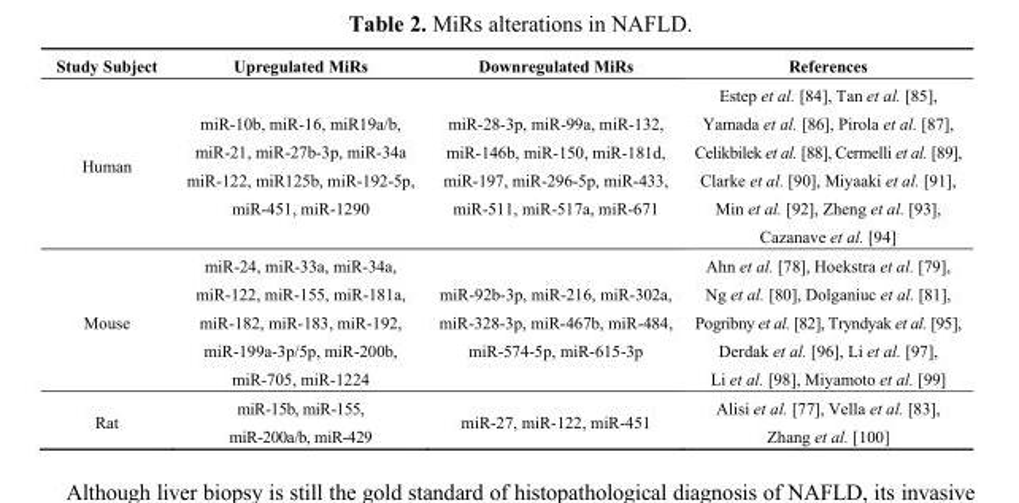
<table><thead><tr><td>Study Subject</td><td>Upregulated MiRs</td><td>Downregulated MiRs</td><td>References</td></tr></thead><tbody><tr><td>Human</td><td>miR-10b, miR-16, miR19a/b, miR-21, miR-27b-3p, miR-34a miR-122, miR125b, miR-192-5p, miR-451, miR-1290</td><td>miR-28-3p, miR-99a, miR-132, miR-146b, miR-150, miR-181d, miR-197, miR-296-5p, miR-433, miR-511, miR-517a, miR-671</td><td>Estep et al. [84], Tan et al. [85], Yamada et al. [86], Pirola et al. [87], Celikbilek et al. [88], Cermelli et al. [89], Clarke et al. [90], Miyaaki et al. [91], Min et al. [92], Zheng et al. [93], Cazanave et al. [94]</td></tr><tr><td>Mouse</td><td>miR-24, miR-33a, miR-34a, miR-122, miR-155, miR-181a, miR-182, miR-183, miR-192, miR-199a-3p/5p, miR-200b, miR-705, miR-1224</td><td>miR-92b-3p, miR-216, miR-302a, miR-328-3p, miR-467b, miR-484, miR-574-5p, miR-615-3p</td><td>Ahn et al. [78], Hoekstra et al. [79], Ng et al. [80], Dolganiuc et al. [81], Pogribny et al. [82], Tryndyak et al. [95], Derdak et al. [96], Li et al. [97], Li et al. [98], Miyamoto et al. [99]</td></tr><tr><td>Rat</td><td>miR-15b, miR-155, miR-200a/b, miR-429</td><td>miR-27, miR-122, miR-451</td><td>Alisi et al. [77], Vella et al. [83], Zhang et al. [100]</td></tr></tbody></table>